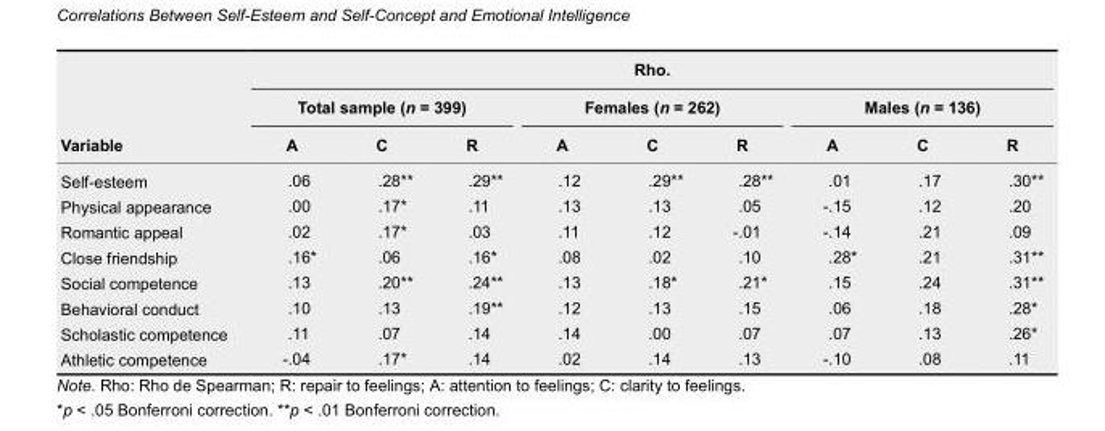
<table><thead><tr><td rowspan="3">Variable</td><td colspan="9">Rho.</td></tr><tr><td colspan="3">Total sample (n = 399)</td><td colspan="3">Females (n = 262)</td><td colspan="3">Males (n = 136)</td></tr><tr><td>A</td><td>C</td><td>R</td><td>A</td><td>C</td><td>R</td><td>A</td><td>C</td><td>R</td></tr></thead><tbody><tr><td>Self-esteem</td><td>.06</td><td>.28**</td><td>.29**</td><td>.12</td><td>.29**</td><td>.28**</td><td>.01</td><td>.17</td><td>.30**</td></tr><tr><td>Physical appearance</td><td>.00</td><td>.17*</td><td>.11</td><td>.13</td><td>.13</td><td>.05</td><td>-.15</td><td>.12</td><td>.20</td></tr><tr><td>Romantic appeal</td><td>.02</td><td>.17*</td><td>.03</td><td>.11</td><td>.12</td><td>-.01</td><td>-.14</td><td>.21</td><td>.09</td></tr><tr><td>Close friendship</td><td>.16*</td><td>.06</td><td>.16*</td><td>.08</td><td>.02</td><td>.10</td><td>.28*</td><td>.21</td><td>.31**</td></tr><tr><td>Social competence</td><td>.13</td><td>.20**</td><td>.24**</td><td>.13</td><td>.18*</td><td>.21*</td><td>.15</td><td>.24</td><td>.31**</td></tr><tr><td>Behavioral conduct</td><td>.10</td><td>.13</td><td>.19**</td><td>.12</td><td>.13</td><td>.15</td><td>.06</td><td>.18</td><td>.28*</td></tr><tr><td>Scholastic competence</td><td>.11</td><td>.07</td><td>.14</td><td>.14</td><td>.00</td><td>.07</td><td>.07</td><td>.13</td><td>.26*</td></tr><tr><td>Athletic competence</td><td>-.04</td><td>.17*</td><td>.14</td><td>.02</td><td>.14</td><td>.13</td><td>-.10</td><td>.08</td><td>.11</td></tr></tbody></table>